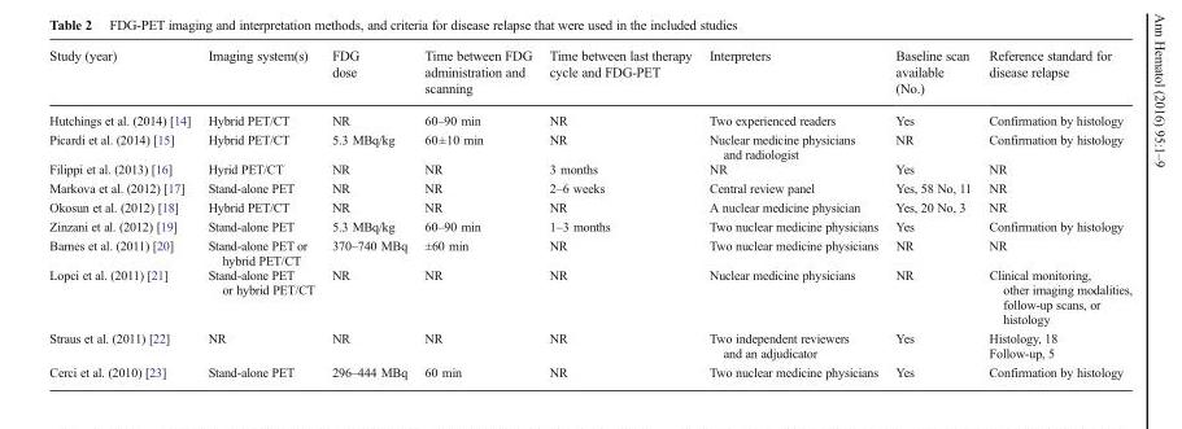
<table><thead><tr><td>Study (year)</td><td>Imaging system(s)</td><td>FDG dose</td><td>Time between FDG administration and scanning</td><td>Time between last therapy cycle and FDG-PET</td><td>Interpreters</td><td>Baseline scan available (No.)</td><td>Reference standard for disease relapse</td></tr></thead><tbody><tr><td>Hutchings et al. (2014) [14]</td><td>Hybrid PET/CT</td><td>NR</td><td>60–90 min</td><td>NR</td><td>Two experienced readers</td><td>Yes</td><td>Confirmation by histology</td></tr><tr><td>Picardi et al. (2014) [15]</td><td>Hybrid PET/CT</td><td>5.3 MBq/kg</td><td>60±10 min</td><td>NR</td><td>Nuclear medicine physicians and radiologist</td><td>NR</td><td>Confirmation by histology</td></tr><tr><td>Filippi et al. (2013) [16]</td><td>Hyrid PET/CT</td><td>NR</td><td>NR</td><td>3 months</td><td>NR</td><td>Yes</td><td>NR</td></tr><tr><td>Markova et al. (2012) [17]</td><td>Stand-alone PET</td><td>NR</td><td>NR</td><td>2–6 weeks</td><td>Central review panel</td><td>Yes, 58 No, 11</td><td>NR</td></tr><tr><td>Okosun et al. (2012) [18]</td><td>Hybrid PET/CT</td><td>NR</td><td>NR</td><td>NR</td><td>A nuclear medicine physician</td><td>Yes, 20 No, 3</td><td>NR</td></tr><tr><td>Zinzani et al. (2012) [19]</td><td>Stand-alone PET</td><td>5.3 MBq/kg</td><td>60–90 min</td><td>1–3 months</td><td>Two nuclear medicine physicians</td><td>Yes</td><td>Confirmation by histology</td></tr><tr><td>Barnes et al. (2011) [20]</td><td>Stand-alone PET or hybrid PET/CT</td><td>370–740 MBq</td><td>±60 min</td><td>NR</td><td>Two nuclear medicine physicians</td><td>NR</td><td>NR</td></tr><tr><td>Lopci et al. (2011) [21]</td><td>Stand-alone PET or hybrid PET/CT</td><td>NR</td><td>NR</td><td>NR</td><td>Nuclear medicine physicians</td><td>NR</td><td>Clinical monitoring, other imaging modalities, follow-up scans, or histology</td></tr><tr><td>Straus et al. (2011) [22]</td><td>NR</td><td>NR</td><td>NR</td><td>NR</td><td>Two independent reviewers and an adjudicator</td><td>Yes</td><td>Histology, 18 Follow-up, 5</td></tr><tr><td>Cerci et al. (2010) [23]</td><td>Stand-alone PET</td><td>296–444 MBq</td><td>60 min</td><td>NR</td><td>Two nuclear medicine physicians</td><td>Yes</td><td>Confirmation by histology</td></tr></tbody></table>